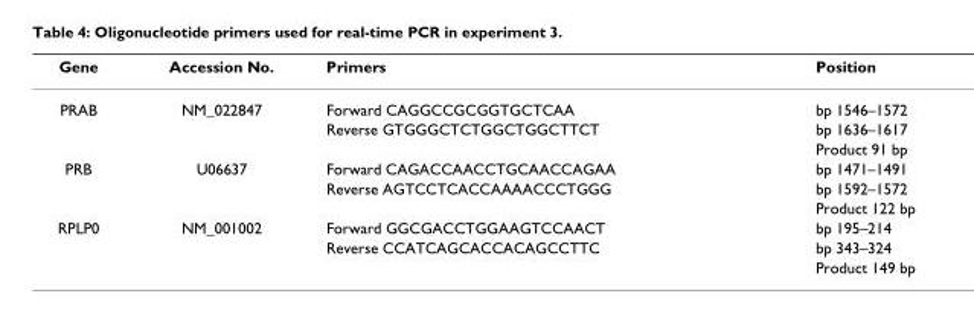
<table><thead><tr><td>Gene</td><td>Accession No.</td><td>Primers</td><td>Position</td></tr></thead><tbody><tr><td rowspan="3">PRAB</td><td>NM_022847</td><td>Forward CAGGCCGCGGTGCTCAA</td><td>bp 1546–1572</td></tr><tr><td></td><td>Reverse GTGGGCTCTGGCTGGCTTCT</td><td>bp 1636–1617</td></tr><tr><td></td><td></td><td>Product 91 bp</td></tr><tr><td rowspan="3">PRB</td><td>U06637</td><td>Forward CAGACCAACCTGCAACCAGAA</td><td>bp 1471–1491</td></tr><tr><td></td><td>Reverse AGTCCTCACCAAAACCCTGGG</td><td>bp 1592–1572</td></tr><tr><td></td><td></td><td>Product 122 bp</td></tr><tr><td rowspan="3">RPLP0</td><td>NM_001002</td><td>Forward GGCGACCTGGAAGTCCAACT</td><td>bp 195–214</td></tr><tr><td></td><td>Reverse CCATCAGCACCACAGCCTTC</td><td>bp 343–324</td></tr><tr><td></td><td></td><td>Product 149 bp</td></tr></tbody></table>